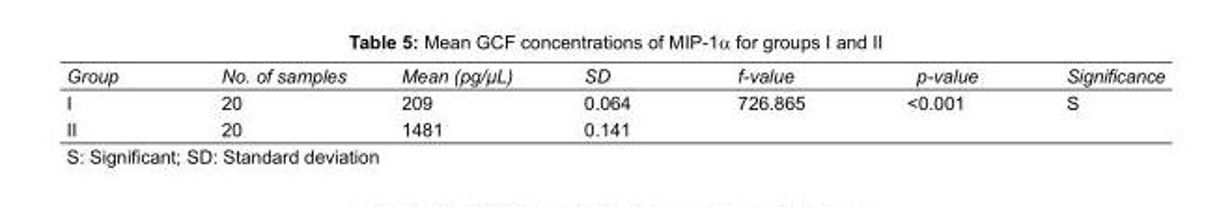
<table><tbody><tr><td>Group</td><td>No. of samples</td><td>Mean (pg/μL)</td><td>SD</td><td>f-value</td><td>p-value</td><td>Significance</td></tr><tr><td>I</td><td>20</td><td>209</td><td>0.064</td><td>726.865</td><td>&lt;0.001</td><td>S</td></tr><tr><td>II</td><td>20</td><td>1481</td><td>0.141</td><td></td><td></td><td></td></tr></tbody></table>